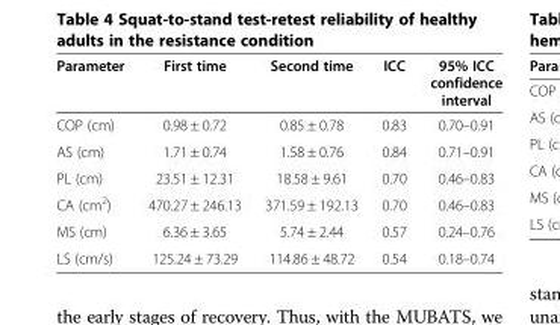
<table><thead><tr><td>Parameter</td><td>First time</td><td>Second time</td><td>ICC</td><td>95% ICC confidence interval</td></tr></thead><tbody><tr><td>COP (cm)</td><td>0.98 ± 0.72</td><td>0.85 ± 0.78</td><td>0.83</td><td>0.70–0.91</td></tr><tr><td>AS (cm)</td><td>1.71 ± 0.74</td><td>1.58 ± 0.76</td><td>0.84</td><td>0.71–0.91</td></tr><tr><td>PL (cm)</td><td>23.51 ± 12.31</td><td>18.58 ± 9.61</td><td>0.70</td><td>0.46–0.83</td></tr><tr><td>CA (cm<sup>2</sup>)</td><td>470.27 ± 246.13</td><td>371.59 ± 192.13</td><td>0.70</td><td>0.46–0.83</td></tr><tr><td>MS (cm)</td><td>6.36 ± 3.65</td><td>5.74 ± 2.44</td><td>0.57</td><td>0.24–0.76</td></tr><tr><td>LS (cm/s)</td><td>125.24 ± 73.29</td><td>114.86 ± 48.72</td><td>0.54</td><td>0.18–0.74</td></tr></tbody></table>